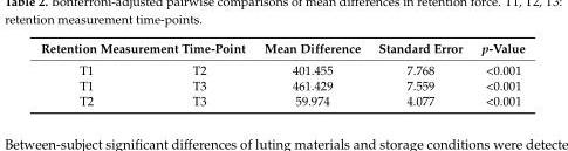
<table><thead><tr><td colspan="2">Retention Measurement Time-Point</td><td rowspan="2">Mean Difference 401.455</td><td rowspan="2">Standard Error 7.768</td><td rowspan="2">p-Value &lt;0.001</td></tr><tr><td>T1</td><td>T2</td></tr></thead><tbody><tr><td>T1</td><td>T3</td><td>461.429</td><td>7.559</td><td>&lt;0.001</td></tr><tr><td>T2</td><td>T3</td><td>59.974</td><td>4.077</td><td>&lt;0.001</td></tr></tbody></table>